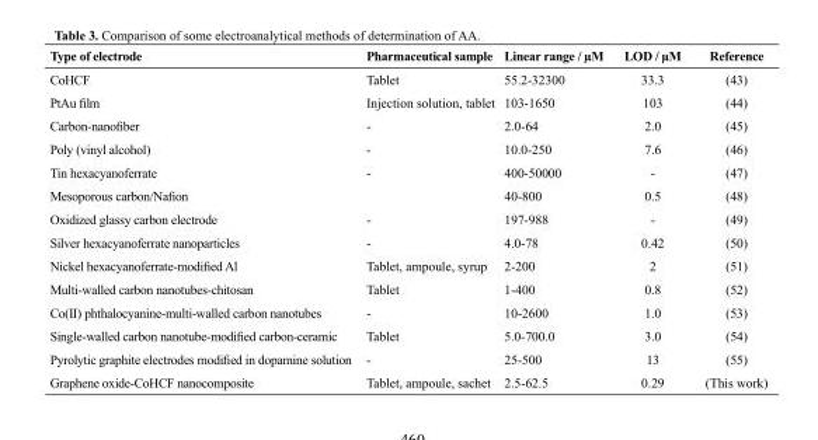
<table><tbody><tr><td>Type of electrode</td><td>Pharmaceutical sample</td><td>Linear range / µM</td><td>LOD / µM</td><td>Reference</td></tr><tr><td>CoHCF</td><td>Tablet</td><td>55.2-32300</td><td>33.3</td><td>(43)</td></tr><tr><td>PtAu film</td><td>Injection solution, tablet</td><td>103-1650</td><td>103</td><td>(44)</td></tr><tr><td>Carbon-nanofiber</td><td>-</td><td>2.0-64</td><td>2.0</td><td>(45)</td></tr><tr><td>Poly (vinyl alcohol)</td><td>-</td><td>10.0-250</td><td>7.6</td><td>(46)</td></tr><tr><td>Tin hexacyanoferrate</td><td>-</td><td>400-50000</td><td>-</td><td>(47)</td></tr><tr><td>Mesoporous carbon/Nafion</td><td></td><td>40-800</td><td>0.5</td><td>(48)</td></tr><tr><td>Oxidized glassy carbon electrode</td><td>-</td><td>197-988</td><td>-</td><td>(49)</td></tr><tr><td>Silver hexacyanoferrate nanoparticles</td><td>-</td><td>4.0-78</td><td>0.42</td><td>(50)</td></tr><tr><td>Nickel hexacyanoferrate-modified Al</td><td>Tablet, ampoule, syrup</td><td>2-200</td><td>2</td><td>(51)</td></tr><tr><td>Multi-walled carbon nanotubes-chitosan</td><td>Tablet</td><td>1-400</td><td>0.8</td><td>(52)</td></tr><tr><td>Co(II) phthalocyanine-multi-walled carbon nanotubes</td><td>-</td><td>10-2600</td><td>1.0</td><td>(53)</td></tr><tr><td>Single-walled carbon nanotube-modified carbon-ceramic</td><td>Tablet</td><td>5.0-700.0</td><td>3.0</td><td>(54)</td></tr><tr><td>Pyrolytic graphite electrodes modified in dopamine solution</td><td>-</td><td>25-500</td><td>13</td><td>(55)</td></tr><tr><td>Graphene oxide-CoHCF nanocomposite</td><td>Tablet, ampoule, sachet</td><td>2.5-62.5</td><td>0.29</td><td>(This work)</td></tr></tbody></table>